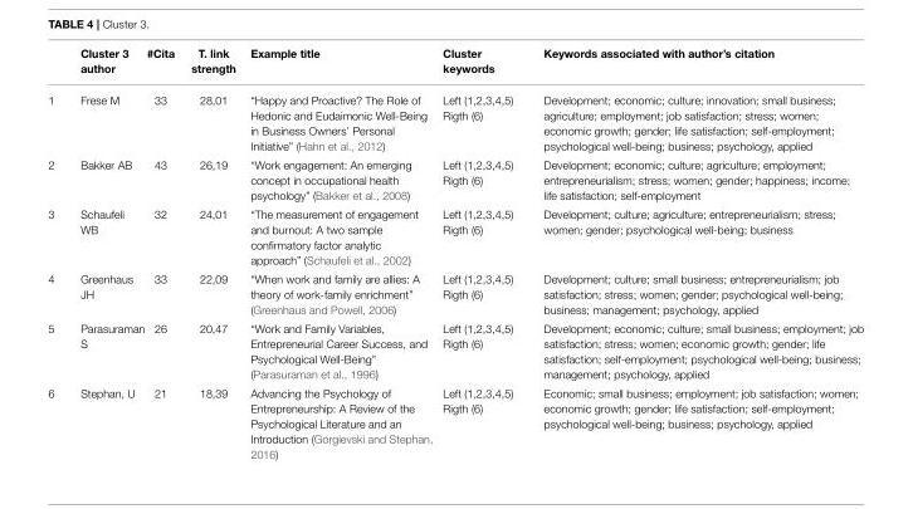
<table><thead><tr><td></td><td>Cluster 3 author</td><td>#Cita</td><td>T. link strength</td><td>Example title</td><td>Cluster keywords</td><td>Keywords associated with author’s citation</td></tr></thead><tbody><tr><td>1</td><td>Frese M</td><td>33</td><td>28,01</td><td>“Happy and Proactive? The Role of Hedonic and Eudaimonic Well-Being in Business Owners’ Personal Initiative” (Hahn et al., 2012)</td><td>Left (1,2,3,4,5) Rigth (6)</td><td>Development; economic; culture; innovation; small business; agriculture; employment; job satisfaction; stress; women; economic growth; gender; life satisfaction; self-employment; psychological well-being; business; psychology, applied</td></tr><tr><td>2</td><td>Bakker AB</td><td>43</td><td>26,19</td><td>“Work engagement: An emerging concept in occupational health psychology” (Bakker et al., 2008)</td><td>Left (1,2,3,4,5) Rigth (6)</td><td>Development; economic; culture; agriculture; employment; entrepreneurialism; stress; women; gender; happiness; income; life satisfaction; self-employment</td></tr><tr><td>3</td><td>Schaufeli WB</td><td>32</td><td>24,01</td><td>“The measurement of engagement and burnout: A two sample confirmatory factor analytic approach” (Schaufeli et al., 2002)</td><td>Left (1,2,3,4,5) Rigth (6)</td><td>Development; culture; agriculture; entrepreneurialism; stress; women; gender; psychological well-being; business</td></tr><tr><td>4</td><td>Greenhaus JH</td><td>33</td><td>22,09</td><td>“When work and family are allies: A theory of work-family enrichment” (Greenhaus and Powell, 2006)</td><td>Left (1,2,3,4,5) Rigth (6)</td><td>Development; culture; small business; entrepreneurialism; job satisfaction; stress; women; gender; psychological well-being; business; management; psychology, applied</td></tr><tr><td>5</td><td>Parasuraman S</td><td>26</td><td>20,47</td><td>“Work and Family Variables, Entrepreneurial Career Success, and Psychological Well-Being” (Parasuraman et al., 1996)</td><td>Left (1,2,3,4,5) Rigth (6)</td><td>Development; economic; culture; small business; employment; job satisfaction; stress; women; economic growth; gender; life satisfaction; self-employment; psychological well-being; business; management; psychology, applied</td></tr><tr><td>6</td><td>Stephan, U</td><td>21</td><td>18,39</td><td>Advancing the Psychology of Entrepreneurship: A Review of the Psychological Literature and an Introduction (Gorgievski and Stephan, 2016)</td><td>Left (1,2,3,4,5) Rigth (6)</td><td>Economic; small business; employment; job satisfaction; women; economic growth; gender; life satisfaction; self-employment; psychological well-being; business; psychology, applied</td></tr></tbody></table>